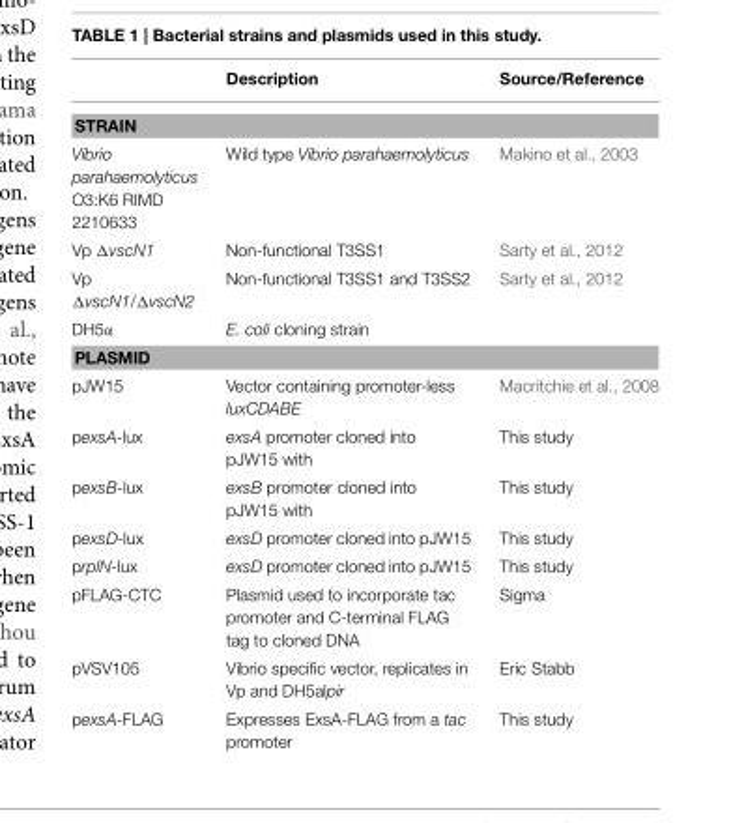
<table><thead><tr><td></td><td>Description</td><td>Source/Reference</td></tr></thead><tbody><tr><td colspan="3">STRAIN</td></tr><tr><td>Vibrio parahaemolyticus O3:K6 RIMD 2210633</td><td>Wild type Vibrio parahaemolyticus</td><td>Makino et al., 2003</td></tr><tr><td>Vp ΔvscN1</td><td>Non-functional T3SS1</td><td>Sarty et al., 2012</td></tr><tr><td>Vp ΔvscN1/ΔvscN2</td><td>Non-functional T3SS1 and T3SS2</td><td>Sarty et al., 2012</td></tr><tr><td>DH5α</td><td>E. coli cloning strain</td><td></td></tr><tr><td colspan="3">PLASMID</td></tr><tr><td>pJW15</td><td>Vector containing promoter-less luxCDABE</td><td>Macritchie et al., 2008</td></tr><tr><td>pexsA-lux</td><td>exsA promoter cloned into pJW15 with</td><td>This study</td></tr><tr><td>pexsB-lux</td><td>exsB promoter cloned into pJW15 with</td><td>This study</td></tr><tr><td>pexsD-lux</td><td>exsD promoter cloned into pJW15</td><td>This study</td></tr><tr><td>prplN-lux</td><td>exsD promoter cloned into pJW15</td><td>This study</td></tr><tr><td>pFLAG-CTC</td><td>Plasmid used to incorporate tac promoter and C-terminal FLAG tag to cloned DNA</td><td>Sigma</td></tr><tr><td>pVSV105</td><td>Vibrio specific vector, replicates in Vp and DH5alpir</td><td>Eric Stabb</td></tr><tr><td>pexsA-FLAG</td><td>Expresses ExsA-FLAG from a tac promoter</td><td>This study</td></tr></tbody></table>